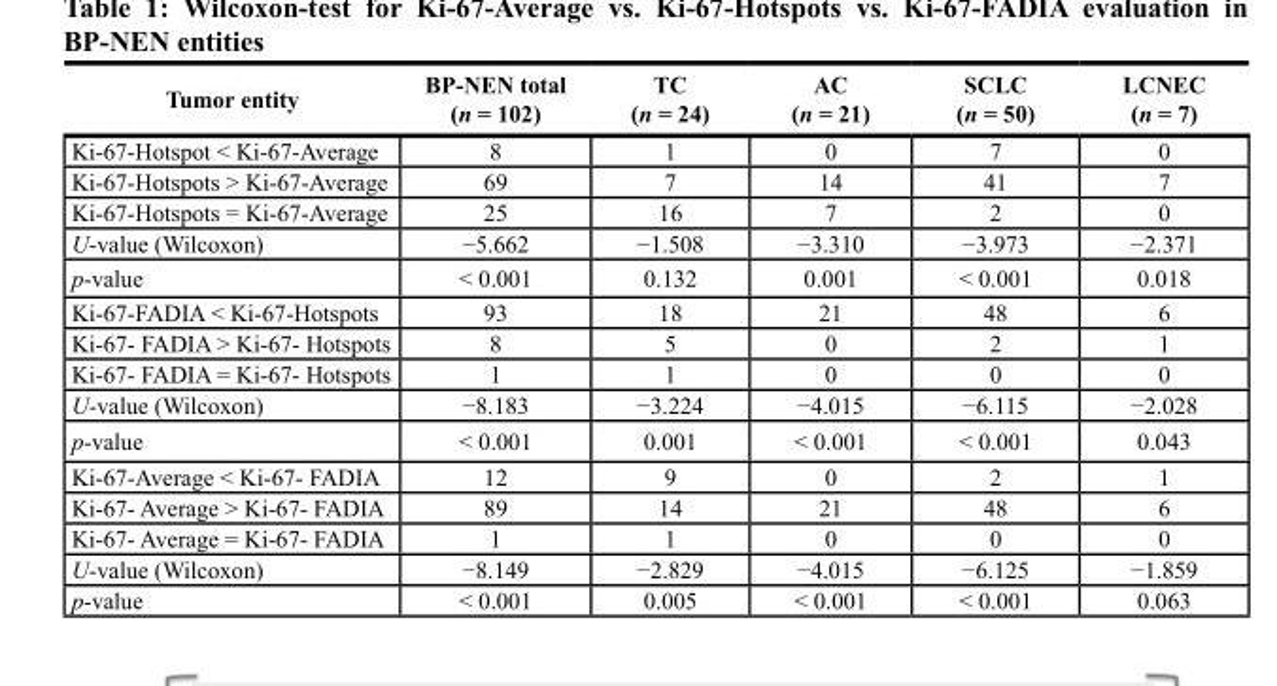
<table><thead><tr><td>Tumor entity</td><td>BP-NEN total (n = 102)</td><td>TC (n = 24)</td><td>AC (n = 21)</td><td>SCLC (n = 50)</td><td>LCNEC (n = 7)</td></tr></thead><tbody><tr><td>Ki-67-Hotspot &lt; Ki-67-Average</td><td>8</td><td>1</td><td>0</td><td>7</td><td>0</td></tr><tr><td>Ki-67-Hotspots &gt; Ki-67-Average</td><td>69</td><td>7</td><td>14</td><td>41</td><td>7</td></tr><tr><td>Ki-67-Hotspots = Ki-67-Average</td><td>25</td><td>16</td><td>7</td><td>2</td><td>0</td></tr><tr><td>U-value (Wilcoxon)</td><td>−5.662</td><td>−1.508</td><td>−3.310</td><td>−3.973</td><td>−2.371</td></tr><tr><td>p-value</td><td>&lt; 0.001</td><td>0.132</td><td>0.001</td><td>&lt; 0.001</td><td>0.018</td></tr><tr><td>Ki-67-FADIA &lt; Ki-67-Hotspots</td><td>93</td><td>18</td><td>21</td><td>48</td><td>6</td></tr><tr><td>Ki-67- FADIA &gt; Ki-67- Hotspots</td><td>8</td><td>5</td><td>0</td><td>2</td><td>1</td></tr><tr><td>Ki-67- FADIA = Ki-67- Hotspots</td><td>1</td><td>1</td><td>0</td><td>0</td><td>0</td></tr><tr><td>U-value (Wilcoxon)</td><td>−8.183</td><td>−3.224</td><td>−4.015</td><td>−6.115</td><td>−2.028</td></tr><tr><td>p-value</td><td>&lt; 0.001</td><td>0.001</td><td>&lt; 0.001</td><td>&lt; 0.001</td><td>0.043</td></tr><tr><td>Ki-67-Average &lt; Ki-67- FADIA</td><td>12</td><td>9</td><td>0</td><td>2</td><td>1</td></tr><tr><td>Ki-67- Average &gt; Ki-67- FADIA</td><td>89</td><td>14</td><td>21</td><td>48</td><td>6</td></tr><tr><td>Ki-67- Average = Ki-67- FADIA</td><td>1</td><td>1</td><td>0</td><td>0</td><td>0</td></tr><tr><td>U-value (Wilcoxon)</td><td>−8.149</td><td>−2.829</td><td>−4.015</td><td>−6.125</td><td>−1.859</td></tr><tr><td>p-value</td><td>&lt; 0.001</td><td>0.005</td><td>&lt; 0.001</td><td>&lt; 0.001</td><td>0.063</td></tr></tbody></table>